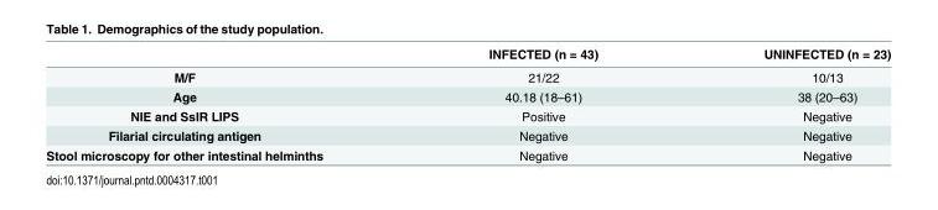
<table><thead><tr><td></td><td>INFECTED (n = 43)</td><td>UNINFECTED (n = 23)</td></tr></thead><tbody><tr><td>M/F</td><td>21/22</td><td>10/13</td></tr><tr><td>Age</td><td>40.18 (18–61)</td><td>38 (20–63)</td></tr><tr><td>NIE and SsIR LIPS</td><td>Positive</td><td>Negative</td></tr><tr><td>Filarial circulating antigen</td><td>Negative</td><td>Negative</td></tr><tr><td>Stool microscopy for other intestinal helminths</td><td>Negative</td><td>Negative</td></tr></tbody></table>